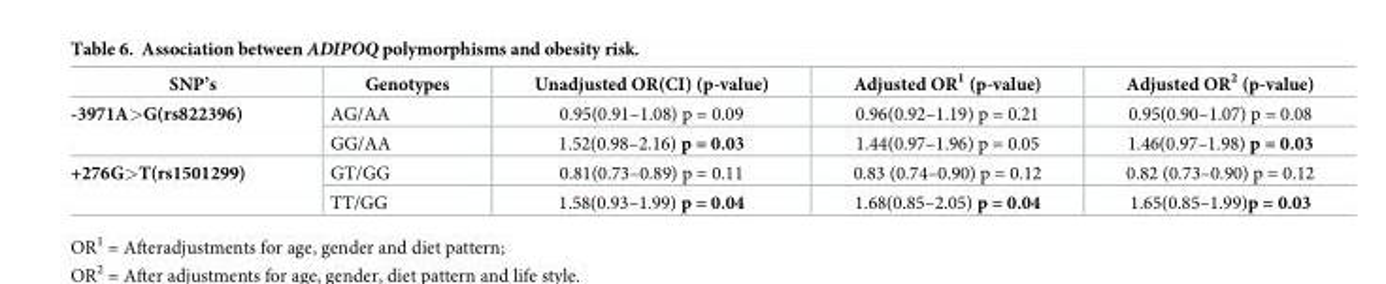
<table><thead><tr><td>SNP’s</td><td>Genotypes</td><td>Unadjusted OR(CI) (p-value)</td><td>Adjusted OR<sup>1</sup> (p-value)</td><td>Adjusted OR<sup>2</sup> (p-value)</td></tr></thead><tbody><tr><td rowspan="2">-3971A&gt;G(rs822396)</td><td>AG/AA</td><td>0.95(0.91–1.08) p = 0.09</td><td>0.96(0.92–1.19) p = 0.21</td><td>0.95(0.90–1.07) p = 0.08</td></tr><tr><td>GG/AA</td><td>1.52(0.98–2.16) p = 0.03</td><td>1.44(0.97–1.96) p = 0.05</td><td>1.46(0.97–1.98) p = 0.03</td></tr><tr><td rowspan="2">+276G&gt;T(rs1501299)</td><td>GT/GG</td><td>0.81(0.73–0.89) p = 0.11</td><td>0.83 (0.74–0.90) p = 0.12</td><td>0.82 (0.73–0.90) p = 0.12</td></tr><tr><td>TT/GG</td><td>1.58(0.93–1.99) p = 0.04</td><td>1.68(0.85–2.05) p = 0.04</td><td>1.65(0.85–1.99)p = 0.03</td></tr></tbody></table>